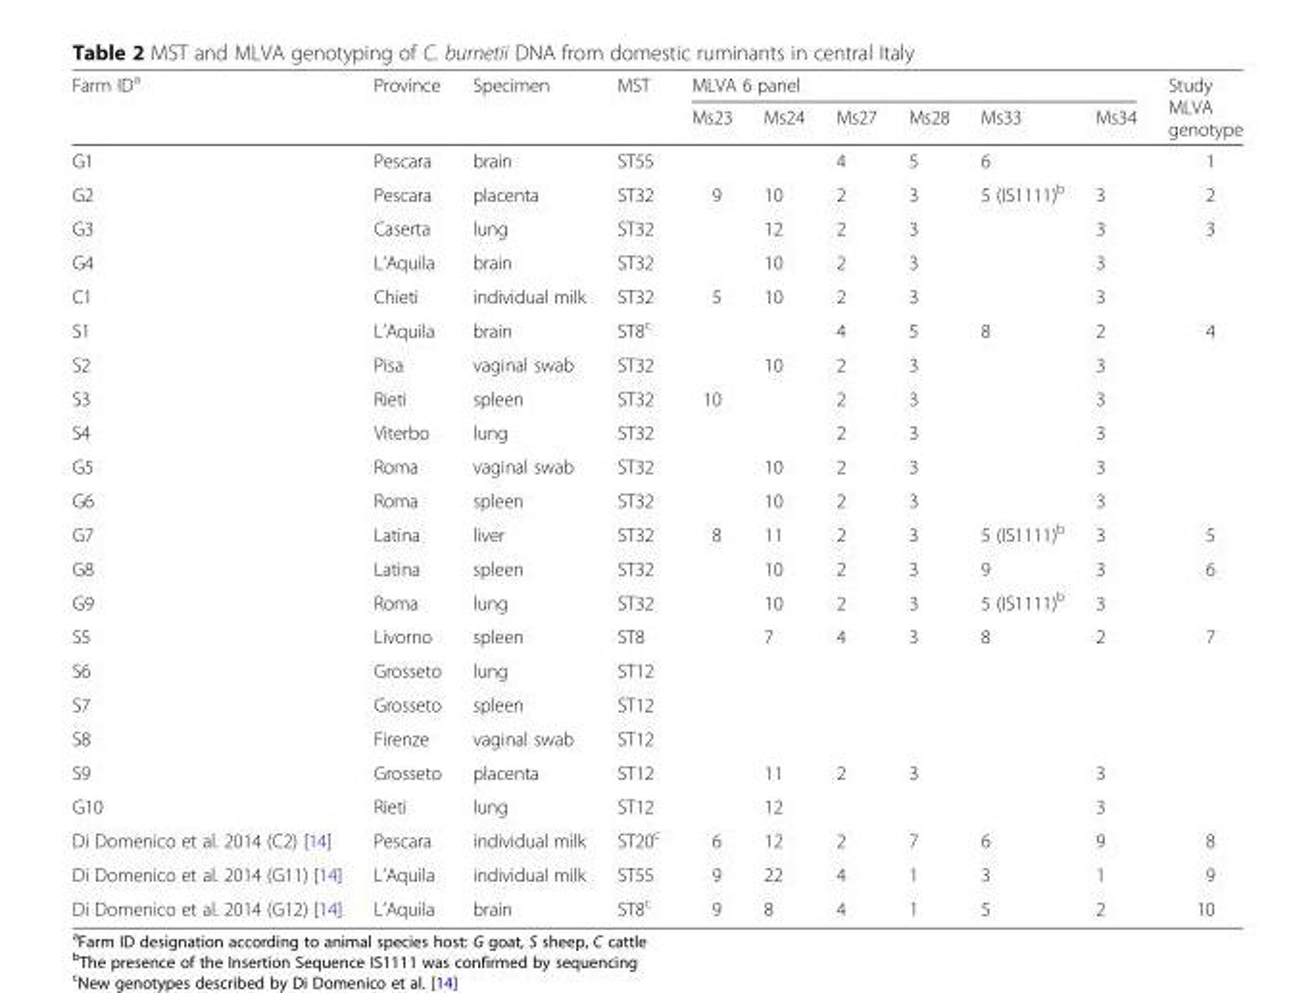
<table><thead><tr><td rowspan="2">Farm ID<sup>a</sup></td><td rowspan="2">Province</td><td rowspan="2">Specimen</td><td rowspan="2">MST</td><td colspan="6">MLVA 6 panel</td><td rowspan="2">Study MLVA genotype</td></tr><tr><td>Ms23</td><td>Ms24</td><td>Ms27</td><td>Ms28</td><td>Ms33</td><td>Ms34</td></tr></thead><tbody><tr><td>G1</td><td>Pescara</td><td>brain</td><td>ST55</td><td></td><td></td><td>4</td><td>5</td><td>6</td><td></td><td>1</td></tr><tr><td>G2</td><td>Pescara</td><td>placenta</td><td>ST32</td><td>9</td><td>10</td><td>2</td><td>3</td><td>5 (IS1111)<sup>b</sup></td><td>3</td><td>2</td></tr><tr><td>G3</td><td>Caserta</td><td>lung</td><td>ST32</td><td></td><td>12</td><td>2</td><td>3</td><td></td><td>3</td><td>3</td></tr><tr><td>G4</td><td>L’Aquila</td><td>brain</td><td>ST32</td><td></td><td>10</td><td>2</td><td>3</td><td></td><td>3</td><td></td></tr><tr><td>C1</td><td>Chieti</td><td>individual milk</td><td>ST32</td><td>5</td><td>10</td><td>2</td><td>3</td><td></td><td>3</td><td></td></tr><tr><td>S1</td><td>L’Aquila</td><td>brain</td><td>ST8<sup>c</sup></td><td></td><td></td><td>4</td><td>5</td><td>8</td><td>2</td><td>4</td></tr><tr><td>S2</td><td>Pisa</td><td>vaginal swab</td><td>ST32</td><td></td><td>10</td><td>2</td><td>3</td><td></td><td>3</td><td></td></tr><tr><td>S3</td><td>Rieti</td><td>spleen</td><td>ST32</td><td>10</td><td></td><td>2</td><td>3</td><td></td><td>3</td><td></td></tr><tr><td>S4</td><td>Viterbo</td><td>lung</td><td>ST32</td><td></td><td></td><td>2</td><td>3</td><td></td><td>3</td><td></td></tr><tr><td>G5</td><td>Roma</td><td>vaginal swab</td><td>ST32</td><td></td><td>10</td><td>2</td><td>3</td><td></td><td>3</td><td></td></tr><tr><td>G6</td><td>Roma</td><td>spleen</td><td>ST32</td><td></td><td>10</td><td>2</td><td>3</td><td></td><td>3</td><td></td></tr><tr><td>G7</td><td>Latina</td><td>liver</td><td>ST32</td><td>8</td><td>11</td><td>2</td><td>3</td><td>5 (IS1111)<sup>b</sup></td><td>3</td><td>5</td></tr><tr><td>G8</td><td>Latina</td><td>spleen</td><td>ST32</td><td></td><td>10</td><td>2</td><td>3</td><td>9</td><td>3</td><td>6</td></tr><tr><td>G9</td><td>Roma</td><td>lung</td><td>ST32</td><td></td><td>10</td><td>2</td><td>3</td><td>5 (IS1111)<sup>b</sup></td><td>3</td><td></td></tr><tr><td>S5</td><td>Livorno</td><td>spleen</td><td>ST8</td><td></td><td>7</td><td>4</td><td>3</td><td>8</td><td>2</td><td>7</td></tr><tr><td>S6</td><td>Grosseto</td><td>lung</td><td>ST12</td><td></td><td></td><td></td><td></td><td></td><td></td><td></td></tr><tr><td>S7</td><td>Grosseto</td><td>spleen</td><td>ST12</td><td></td><td></td><td></td><td></td><td></td><td></td><td></td></tr><tr><td>S8</td><td>Firenze</td><td>vaginal swab</td><td>ST12</td><td></td><td></td><td></td><td></td><td></td><td></td><td></td></tr><tr><td>S9</td><td>Grosseto</td><td>placenta</td><td>ST12</td><td></td><td>11</td><td>2</td><td>3</td><td></td><td>3</td><td></td></tr><tr><td>G10</td><td>Rieti</td><td>lung</td><td>ST12</td><td></td><td>12</td><td></td><td></td><td></td><td>3</td><td></td></tr><tr><td>Di Domenico et al. 2014 (C2) [14]</td><td>Pescara</td><td>individual milk</td><td>ST20<sup>c</sup></td><td>6</td><td>12</td><td>2</td><td>7</td><td>6</td><td>9</td><td>8</td></tr><tr><td>Di Domenico et al. 2014 (G11) [14]</td><td>L’Aquila</td><td>individual milk</td><td>ST55</td><td>9</td><td>22</td><td>4</td><td>1</td><td>3</td><td>1</td><td>9</td></tr><tr><td>Di Domenico et al. 2014 (G12) [14]</td><td>L’Aquila</td><td>brain</td><td>ST8<sup>c</sup></td><td>9</td><td>8</td><td>4</td><td>1</td><td>5</td><td>2</td><td>10</td></tr></tbody></table>